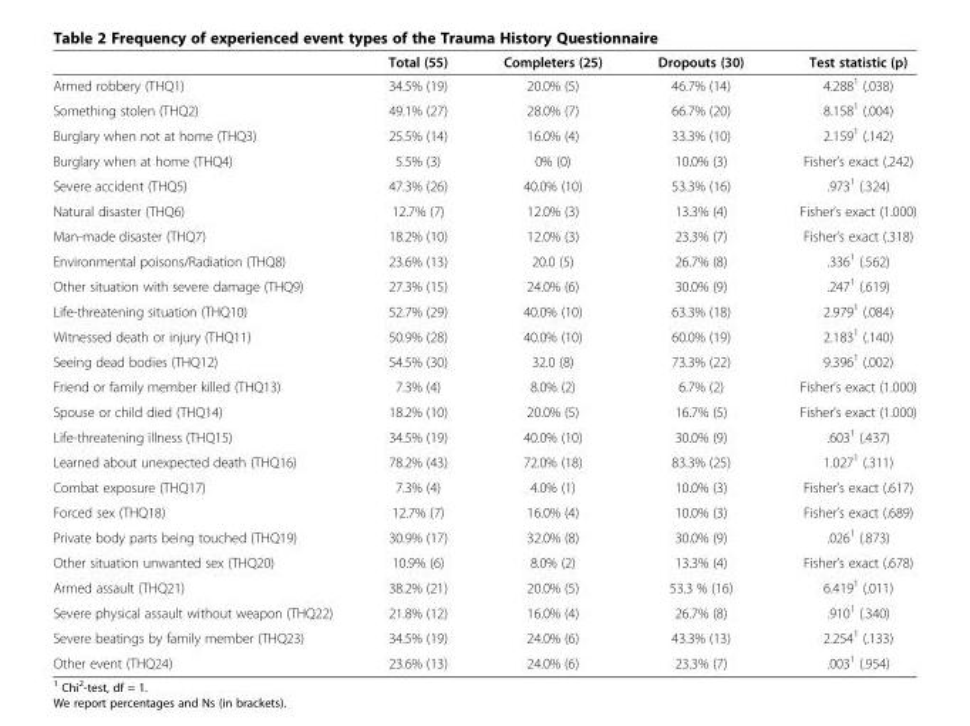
<table><thead><tr><td></td><td>Total (55)</td><td>Completers (25)</td><td>Dropouts (30)</td><td>Test statistic (p)</td></tr></thead><tbody><tr><td>Armed robbery (THQ1)</td><td>34.5% (19)</td><td>20.0% (5)</td><td>46.7% (14)</td><td>4.288<sup>1</sup> (.038)</td></tr><tr><td>Something stolen (THQ2)</td><td>49.1% (27)</td><td>28.0% (7)</td><td>66.7% (20)</td><td>8.158<sup>1</sup> (.004)</td></tr><tr><td>Burglary when not at home (THQ3)</td><td>25.5% (14)</td><td>16.0% (4)</td><td>33.3% (10)</td><td>2.159<sup>1</sup> (.142)</td></tr><tr><td>Burglary when at home (THQ4)</td><td>5.5% (3)</td><td>0% (0)</td><td>10.0% (3)</td><td>Fisher’s exact (.242)</td></tr><tr><td>Severe accident (THQ5)</td><td>47.3% (26)</td><td>40.0% (10)</td><td>53.3% (16)</td><td>.973<sup>1</sup> (.324)</td></tr><tr><td>Natural disaster (THQ6)</td><td>12.7% (7)</td><td>12.0% (3)</td><td>13.3% (4)</td><td>Fisher’s exact (1.000)</td></tr><tr><td>Man-made disaster (THQ7)</td><td>18.2% (10)</td><td>12.0% (3)</td><td>23.3% (7)</td><td>Fisher’s exact (.318)</td></tr><tr><td>Environmental poisons/Radiation (THQ8)</td><td>23.6% (13)</td><td>20.0 (5)</td><td>26.7% (8)</td><td>.336<sup>1</sup> (.562)</td></tr><tr><td>Other situation with severe damage (THQ9)</td><td>27.3% (15)</td><td>24.0% (6)</td><td>30.0% (9)</td><td>.247<sup>1</sup> (.619)</td></tr><tr><td>Life-threatening situation (THQ10)</td><td>52.7% (29)</td><td>40.0% (10)</td><td>63.3% (18)</td><td>2.979<sup>1</sup> (.084)</td></tr><tr><td>Witnessed death or injury (THQ11)</td><td>50.9% (28)</td><td>40.0% (10)</td><td>60.0% (19)</td><td>2.183<sup>1</sup> (.140)</td></tr><tr><td>Seeing dead bodies (THQ12)</td><td>54.5% (30)</td><td>32.0 (8)</td><td>73.3% (22)</td><td>9.396<sup>1</sup> (.002)</td></tr><tr><td>Friend or family member killed (THQ13)</td><td>7.3% (4)</td><td>8.0% (2)</td><td>6.7% (2)</td><td>Fisher’s exact (1.000)</td></tr><tr><td>Spouse or child died (THQ14)</td><td>18.2% (10)</td><td>20.0% (5)</td><td>16.7% (5)</td><td>Fisher’s exact (1.000)</td></tr><tr><td>Life-threatening illness (THQ15)</td><td>34.5% (19)</td><td>40.0% (10)</td><td>30.0% (9)</td><td>.603<sup>1</sup> (.437)</td></tr><tr><td>Learned about unexpected death (THQ16)</td><td>78.2% (43)</td><td>72.0% (18)</td><td>83.3% (25)</td><td>1.027<sup>1</sup> (.311)</td></tr><tr><td>Combat exposure (THQ17)</td><td>7.3% (4)</td><td>4.0% (1)</td><td>10.0% (3)</td><td>Fisher’s exact (.617)</td></tr><tr><td>Forced sex (THQ18)</td><td>12.7% (7)</td><td>16.0% (4)</td><td>10.0% (3)</td><td>Fisher’s exact (.689)</td></tr><tr><td>Private body parts being touched (THQ19)</td><td>30.9% (17)</td><td>32.0% (8)</td><td>30.0% (9)</td><td>.026<sup>1</sup> (.873)</td></tr><tr><td>Other situation unwanted sex (THQ20)</td><td>10.9% (6)</td><td>8.0% (2)</td><td>13.3% (4)</td><td>Fisher’s exact (.678)</td></tr><tr><td>Armed assault (THQ21)</td><td>38.2% (21)</td><td>20.0% (5)</td><td>53.3 % (16)</td><td>6.419<sup>1</sup> (.011)</td></tr><tr><td>Severe physical assault without weapon (THQ22)</td><td>21.8% (12)</td><td>16.0% (4)</td><td>26.7% (8)</td><td>.910<sup>1</sup> (.340)</td></tr><tr><td>Severe beatings by family member (THQ23)</td><td>34.5% (19)</td><td>24.0% (6)</td><td>43.3% (13)</td><td>2.254<sup>1</sup> (.133)</td></tr><tr><td>Other event (THQ24)</td><td>23.6% (13)</td><td>24.0% (6)</td><td>23.3% (7)</td><td>.003<sup>1</sup> (.954)</td></tr></tbody></table>